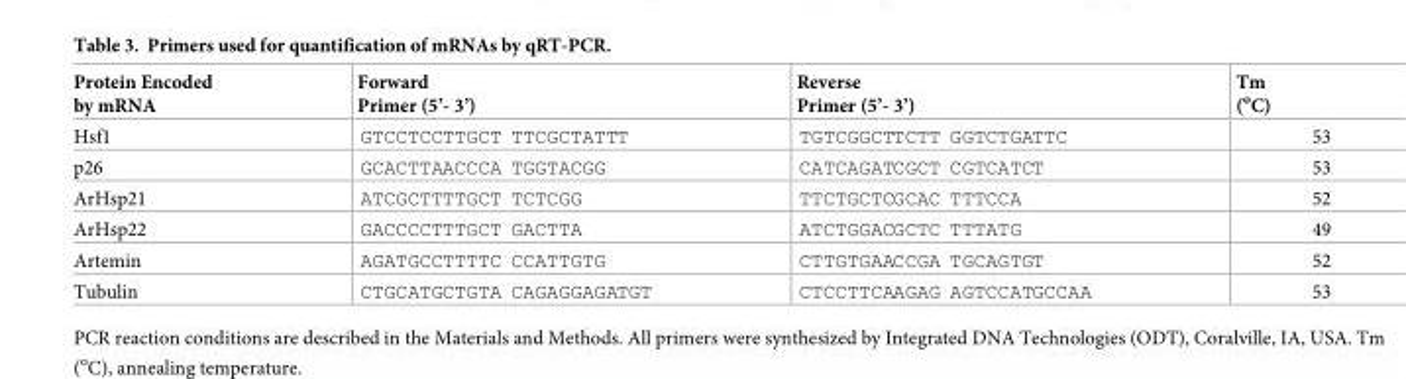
<table><thead><tr><td>Protein Encoded by mRNA</td><td>Forward Primer (5’- 3’)</td><td>Reverse Primer (5’- 3’)</td><td>Tm (<sup>o</sup>C)</td></tr></thead><tbody><tr><td>Hsf1</td><td>GTCCTCCTTGCT TTCGCTATTT</td><td>TGTCGGCTTCTT GGTCTGATTC</td><td>53</td></tr><tr><td>p26</td><td>GCACTTAACCCA TGGTACGG</td><td>CATCAGATCGCT CGTCATCT</td><td>53</td></tr><tr><td>ArHsp21</td><td>ATCGCTTTTGCT TCTCGG</td><td>TTCTGCTCGCAC TTTCCA</td><td>52</td></tr><tr><td>ArHsp22</td><td>GACCCCTTTGCT GACTTA</td><td>ATCTGGACGCTC TTTATG</td><td>49</td></tr><tr><td>Artemin</td><td>AGATGCCTTTTC CCATTGTG</td><td>CTTGTGAACCGA TGCAGTGT</td><td>52</td></tr><tr><td>Tubulin</td><td>CTGCATGCTGTA CAGAGGAGATGT</td><td>CTCCTTCAAGAG AGTCCATGCCAA</td><td>53</td></tr></tbody></table>